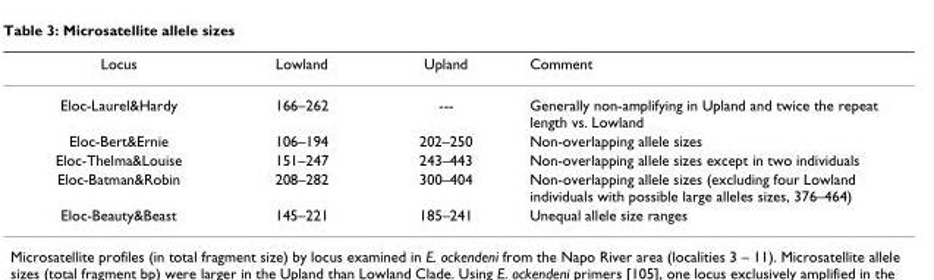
<table><thead><tr><td>Locus</td><td>Lowland</td><td>Upland</td><td>Comment</td></tr></thead><tbody><tr><td>Eloc-Laurel&amp;Hardy</td><td>166–262</td><td>---</td><td>Generally non-amplifying in Upland and twice the repeat length vs. Lowland</td></tr><tr><td>Eloc-Bert&amp;Ernie</td><td>106–194</td><td>202–250</td><td>Non-overlapping allele sizes</td></tr><tr><td>Eloc-Thelma&amp;Louise</td><td>151–247</td><td>243–443</td><td>Non-overlapping allele sizes except in two individuals</td></tr><tr><td>Eloc-Batman&amp;Robin</td><td>208–282</td><td>300–404</td><td>Non-overlapping allele sizes (excluding four Lowland individuals with possible large alleles sizes, 376–464)</td></tr><tr><td>Eloc-Beauty&amp;Beast</td><td>145–221</td><td>185–241</td><td>Unequal allele size ranges</td></tr></tbody></table>